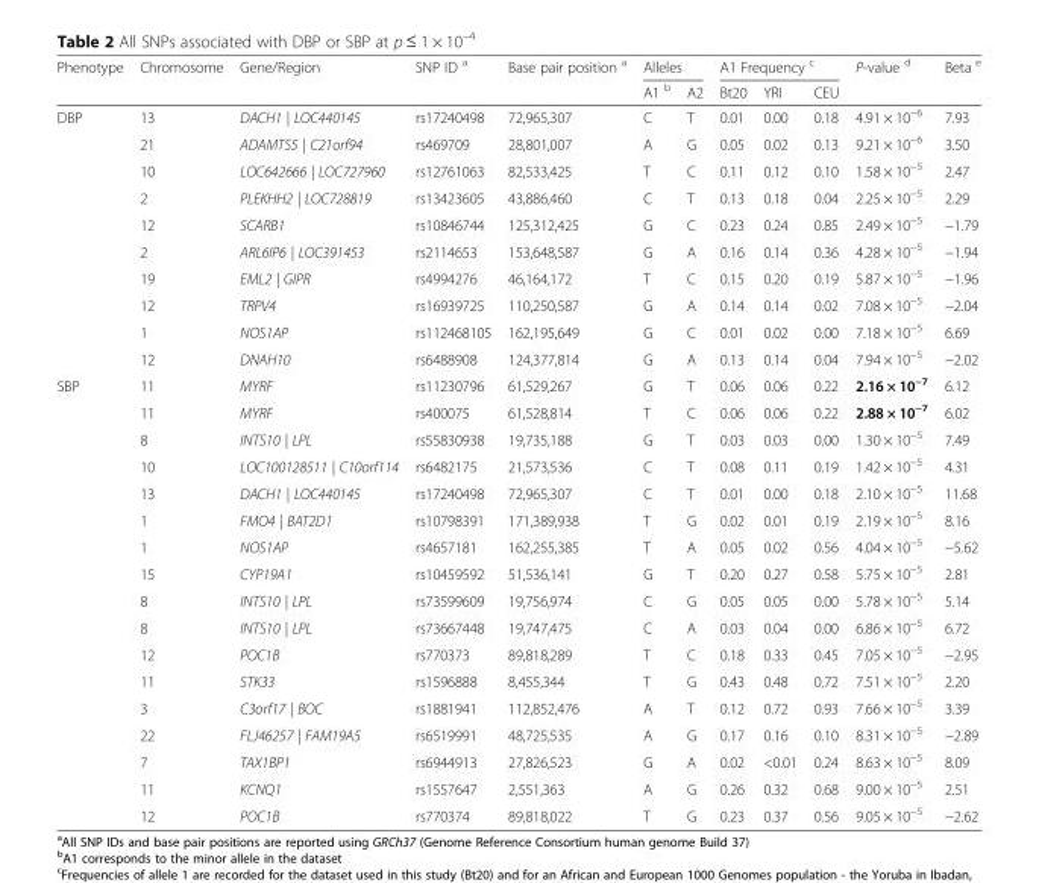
<table><thead><tr><td rowspan="2">Phenotype</td><td rowspan="2">Chromosome</td><td rowspan="2">Gene/Region</td><td rowspan="2">SNP ID <sup>a</sup></td><td rowspan="2">Base pair position <sup>a</sup></td><td colspan="2">Alleles</td><td colspan="3">A1 Frequency <sup>c</sup></td><td rowspan="2">P-value <sup>d</sup></td><td rowspan="2">Beta <sup>e</sup></td></tr><tr><td>A1 <sup>b</sup></td><td>A2</td><td>Bt20</td><td>YRI</td><td>CEU</td></tr></thead><tbody><tr><td rowspan="10">DBP</td><td>13</td><td>DACH1 | LOC440145</td><td>rs17240498</td><td>72,965,307</td><td>C</td><td>T</td><td>0.01</td><td>0.00</td><td>0.18</td><td>4.91 × 10<sup>−6</sup></td><td>7.93</td></tr><tr><td>21</td><td>ADAMTS5 | C21orf94</td><td>rs469709</td><td>28,801,007</td><td>A</td><td>G</td><td>0.05</td><td>0.02</td><td>0.13</td><td>9.21 × 10<sup>−6</sup></td><td>3.50</td></tr><tr><td>10</td><td>LOC642666 | LOC727960</td><td>rs12761063</td><td>82,533,425</td><td>T</td><td>C</td><td>0.11</td><td>0.12</td><td>0.10</td><td>1.58 × 10<sup>−5</sup></td><td>2.47</td></tr><tr><td>2</td><td>PLEKHH2 | LOC728819</td><td>rs13423605</td><td>43,886,460</td><td>C</td><td>T</td><td>0.13</td><td>0.18</td><td>0.04</td><td>2.25 × 10<sup>−5</sup></td><td>2.29</td></tr><tr><td>12</td><td>SCARB1</td><td>rs10846744</td><td>125,312,425</td><td>G</td><td>C</td><td>0.23</td><td>0.24</td><td>0.85</td><td>2.49 × 10<sup>−5</sup></td><td>−1.79</td></tr><tr><td>2</td><td>ARL6IP6 | LOC391453</td><td>rs2114653</td><td>153,648,587</td><td>G</td><td>A</td><td>0.16</td><td>0.14</td><td>0.36</td><td>4.28 × 10<sup>−5</sup></td><td>−1.94</td></tr><tr><td>19</td><td>EML2 | GIPR</td><td>rs4994276</td><td>46,164,172</td><td>T</td><td>C</td><td>0.15</td><td>0.20</td><td>0.19</td><td>5.87 × 10<sup>−5</sup></td><td>−1.96</td></tr><tr><td>12</td><td>TRPV4</td><td>rs16939725</td><td>110,250,587</td><td>G</td><td>A</td><td>0.14</td><td>0.14</td><td>0.02</td><td>7.08 × 10<sup>−5</sup></td><td>−2.04</td></tr><tr><td>1</td><td>NOS1AP</td><td>rs112468105</td><td>162,195,649</td><td>G</td><td>C</td><td>0.01</td><td>0.02</td><td>0.00</td><td>7.18 × 10<sup>−5</sup></td><td>6.69</td></tr><tr><td>12</td><td>DNAH10</td><td>rs6488908</td><td>124,377,814</td><td>G</td><td>A</td><td>0.13</td><td>0.14</td><td>0.04</td><td>7.94 × 10<sup>−5</sup></td><td>−2.02</td></tr><tr><td rowspan="17">SBP</td><td>11</td><td>MYRF</td><td>rs11230796</td><td>61,529,267</td><td>G</td><td>T</td><td>0.06</td><td>0.06</td><td>0.22</td><td>2.16 × 10<sup>−7</sup></td><td>6.12</td></tr><tr><td>11</td><td>MYRF</td><td>rs400075</td><td>61,528,814</td><td>T</td><td>C</td><td>0.06</td><td>0.06</td><td>0.22</td><td>2.88 × 10<sup>−7</sup></td><td>6.02</td></tr><tr><td>8</td><td>INTS10 | LPL</td><td>rs55830938</td><td>19,735,188</td><td>G</td><td>T</td><td>0.03</td><td>0.03</td><td>0.00</td><td>1.30 × 10<sup>−5</sup></td><td>7.49</td></tr><tr><td>10</td><td>LOC100128511 | C10orf114</td><td>rs6482175</td><td>21,573,536</td><td>C</td><td>T</td><td>0.08</td><td>0.11</td><td>0.19</td><td>1.42 × 10<sup>−5</sup></td><td>4.31</td></tr><tr><td>13</td><td>DACH1 | LOC440145</td><td>rs17240498</td><td>72,965,307</td><td>C</td><td>T</td><td>0.01</td><td>0.00</td><td>0.18</td><td>2.10 × 10<sup>−5</sup></td><td>11.68</td></tr><tr><td>1</td><td>FMO4 | BAT2D1</td><td>rs10798391</td><td>171,389,938</td><td>T</td><td>G</td><td>0.02</td><td>0.01</td><td>0.19</td><td>2.19 × 10<sup>−5</sup></td><td>8.16</td></tr><tr><td>1</td><td>NOS1AP</td><td>rs4657181</td><td>162,255,385</td><td>T</td><td>A</td><td>0.05</td><td>0.02</td><td>0.56</td><td>4.04 × 10<sup>−5</sup></td><td>−5.62</td></tr><tr><td>15</td><td>CYP19A1</td><td>rs10459592</td><td>51,536,141</td><td>G</td><td>T</td><td>0.20</td><td>0.27</td><td>0.58</td><td>5.75 × 10<sup>−5</sup></td><td>2.81</td></tr><tr><td>8</td><td>INTS10 | LPL</td><td>rs73599609</td><td>19,756,974</td><td>C</td><td>G</td><td>0.05</td><td>0.05</td><td>0.00</td><td>5.78 × 10<sup>−5</sup></td><td>5.14</td></tr><tr><td>8</td><td>INTS10 | LPL</td><td>rs73667448</td><td>19,747,475</td><td>C</td><td>A</td><td>0.03</td><td>0.04</td><td>0.00</td><td>6.86 × 10<sup>−5</sup></td><td>6.72</td></tr><tr><td>12</td><td>POC1B</td><td>rs770373</td><td>89,818,289</td><td>T</td><td>C</td><td>0.18</td><td>0.33</td><td>0.45</td><td>7.05 × 10<sup>−5</sup></td><td>−2.95</td></tr><tr><td>11</td><td>STK33</td><td>rs1596888</td><td>8,455,344</td><td>T</td><td>G</td><td>0.43</td><td>0.48</td><td>0.72</td><td>7.51 × 10<sup>−5</sup></td><td>2.20</td></tr><tr><td>3</td><td>C3orf17 | BOC</td><td>rs1881941</td><td>112,852,476</td><td>A</td><td>T</td><td>0.12</td><td>0.72</td><td>0.93</td><td>7.66 × 10<sup>−5</sup></td><td>3.39</td></tr><tr><td>22</td><td>FLJ46257 | FAM19A5</td><td>rs6519991</td><td>48,725,535</td><td>A</td><td>G</td><td>0.17</td><td>0.16</td><td>0.10</td><td>8.31 × 10<sup>−5</sup></td><td>−2.89</td></tr><tr><td>7</td><td>TAX1BP1</td><td>rs6944913</td><td>27,826,523</td><td>G</td><td>A</td><td>0.02</td><td>&lt;0.01</td><td>0.24</td><td>8.63 × 10<sup>−5</sup></td><td>8.09</td></tr><tr><td>11</td><td>KCNQ1</td><td>rs1557647</td><td>2,551,363</td><td>A</td><td>G</td><td>0.26</td><td>0.32</td><td>0.68</td><td>9.00 × 10<sup>−5</sup></td><td>2.51</td></tr><tr><td>12</td><td>POC1B</td><td>rs770374</td><td>89,818,022</td><td>T</td><td>G</td><td>0.23</td><td>0.37</td><td>0.56</td><td>9.05 × 10<sup>−5</sup></td><td>−2.62</td></tr></tbody></table>